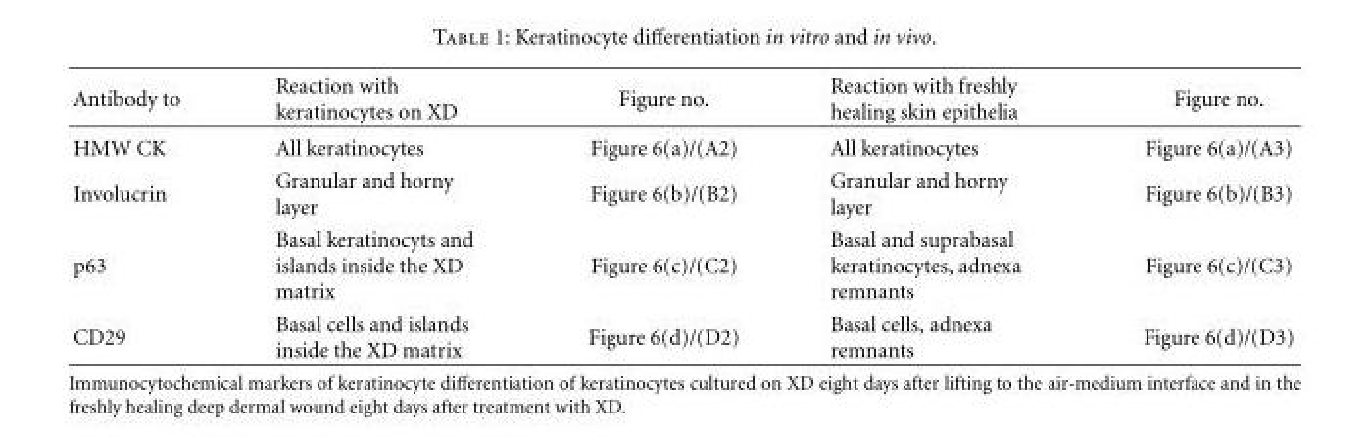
<table><thead><tr><td>Antibody to</td><td>Reaction with keratinocytes on XD</td><td>Figure no.</td><td>Reaction with freshly healing skin epithelia</td><td>Figure no.</td></tr></thead><tbody><tr><td>HMW CK</td><td>All keratinocytes</td><td>Figure 6(a)/(A2)</td><td>All keratinocytes</td><td>Figure 6(a)/(A3)</td></tr><tr><td>Involucrin</td><td>Granular and horny layer</td><td>Figure 6(b)/(B2)</td><td>Granular and horny layer</td><td>Figure 6(b)/(B3)</td></tr><tr><td>p63</td><td>Basal keratinocyts and islands inside the XD matrix</td><td>Figure 6(c)/(C2)</td><td>Basal and suprabasal keratinocytes, adnexa remnants</td><td>Figure 6(c)/(C3)</td></tr><tr><td>CD29</td><td>Basal cells and islands inside the XD matrix</td><td>Figure 6(d)/(D2)</td><td>Basal cells, adnexa remnants</td><td>Figure 6(d)/(D3)</td></tr></tbody></table>